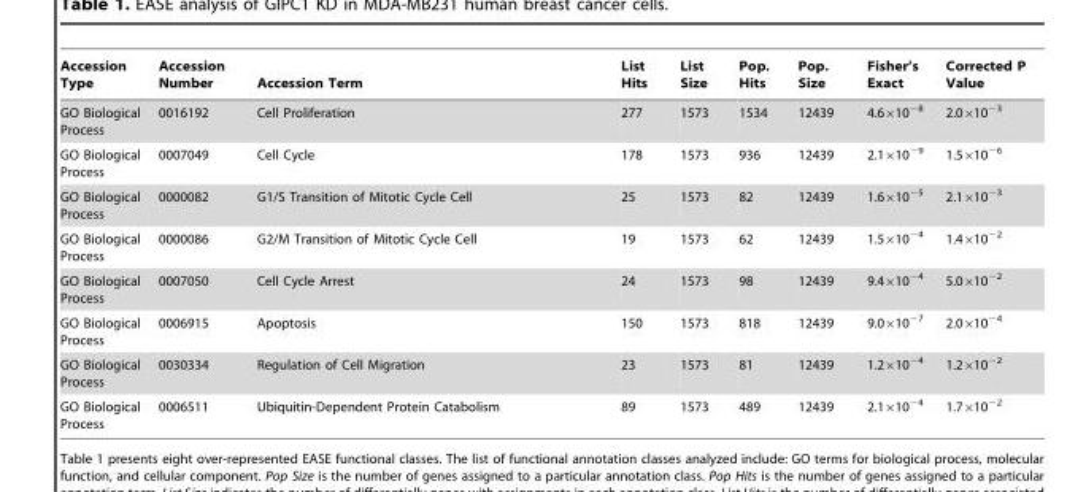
<table><thead><tr><td>Accession Type</td><td>Accession Number</td><td>Accession Term</td><td>List Hits</td><td>List Size</td><td>Pop. Hits</td><td>Pop. Size</td><td>Fisher’s Exact</td><td>Corrected P Value</td></tr></thead><tbody><tr><td>GO Biological Process</td><td>0016192</td><td>Cell Proliferation</td><td>277</td><td>1573</td><td>1534</td><td>12439</td><td>4.6×10<sup>−8</sup></td><td>2.0×10<sup>−3</sup></td></tr><tr><td>GO Biological Process</td><td>0007049</td><td>Cell Cycle</td><td>178</td><td>1573</td><td>936</td><td>12439</td><td>2.1×10<sup>−9</sup></td><td>1.5×10<sup>−6</sup></td></tr><tr><td>GO Biological Process</td><td>0000082</td><td>G1/S Transition of Mitotic Cycle Cell</td><td>25</td><td>1573</td><td>82</td><td>12439</td><td>1.6×10<sup>−5</sup></td><td>2.1×10<sup>−3</sup></td></tr><tr><td>GO Biological Process</td><td>0000086</td><td>G2/M Transition of Mitotic Cycle Cell</td><td>19</td><td>1573</td><td>62</td><td>12439</td><td>1.5×10<sup>−4</sup></td><td>1.4×10<sup>−2</sup></td></tr><tr><td>GO Biological Process</td><td>0007050</td><td>Cell Cycle Arrest</td><td>24</td><td>1573</td><td>98</td><td>12439</td><td>9.4×10<sup>−4</sup></td><td>5.0×10<sup>−2</sup></td></tr><tr><td>GO Biological Process</td><td>0006915</td><td>Apoptosis</td><td>150</td><td>1573</td><td>818</td><td>12439</td><td>9.0×10<sup>−7</sup></td><td>2.0×10<sup>−4</sup></td></tr><tr><td>GO Biological Process</td><td>0030334</td><td>Regulation of Cell Migration</td><td>23</td><td>1573</td><td>81</td><td>12439</td><td>1.2×10<sup>−4</sup></td><td>1.2×10<sup>−2</sup></td></tr><tr><td>GO Biological Process</td><td>0006511</td><td>Ubiquitin-Dependent Protein Catabolism</td><td>89</td><td>1573</td><td>489</td><td>12439</td><td>2.1×10<sup>−4</sup></td><td>1.7×10<sup>−2</sup></td></tr></tbody></table>